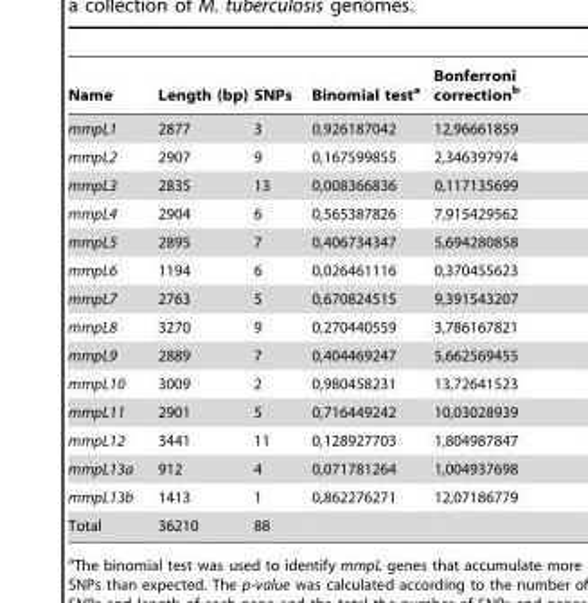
<table><thead><tr><td>Name</td><td>Length (bp)</td><td>SNPs</td><td>Binomial test<sup>a</sup></td><td>Bonferroni correction<sup>b</sup></td></tr></thead><tbody><tr><td>mmpL1</td><td>2877</td><td>3</td><td>0,926187042</td><td>12,96661859</td></tr><tr><td>mmpL2</td><td>2907</td><td>9</td><td>0,167599855</td><td>2,346397974</td></tr><tr><td>mmpL3</td><td>2835</td><td>13</td><td>0,008366836</td><td>0,117135699</td></tr><tr><td>mmpL4</td><td>2904</td><td>6</td><td>0,565387826</td><td>7,915429562</td></tr><tr><td>mmpL5</td><td>2895</td><td>7</td><td>0,406734347</td><td>5,694280858</td></tr><tr><td>mmpL6</td><td>1194</td><td>6</td><td>0,026461116</td><td>0,370455623</td></tr><tr><td>mmpL7</td><td>2763</td><td>5</td><td>0,670824515</td><td>9,391543207</td></tr><tr><td>mmpL8</td><td>3270</td><td>9</td><td>0,270440559</td><td>3,786167821</td></tr><tr><td>mmpL9</td><td>2889</td><td>7</td><td>0,404469247</td><td>5,662569455</td></tr><tr><td>mmpL10</td><td>3009</td><td>2</td><td>0,980458231</td><td>13,72641523</td></tr><tr><td>mmpL11</td><td>2901</td><td>5</td><td>0,716449242</td><td>10,03028939</td></tr><tr><td>mmpL12</td><td>3441</td><td>11</td><td>0,128927703</td><td>1,804987847</td></tr><tr><td>mmpL13a</td><td>912</td><td>4</td><td>0,071781264</td><td>1,004937698</td></tr><tr><td>mmpL13b</td><td>1413</td><td>1</td><td>0,862276271</td><td>12,07186779</td></tr><tr><td>Total</td><td>36210</td><td>88</td><td></td><td></td></tr></tbody></table>